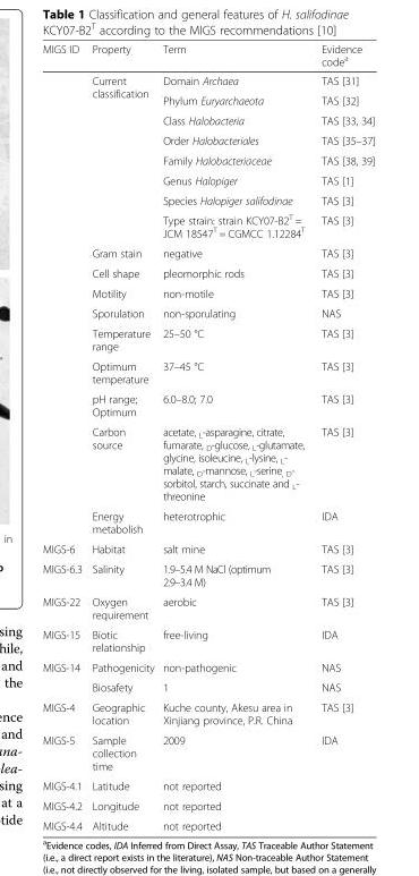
<table><thead><tr><td>MIGS ID</td><td>Property</td><td>Term</td><td>Evidence code<sup>a</sup></td></tr></thead><tbody><tr><td rowspan="8"></td><td rowspan="8">Current classification</td><td>Domain Archaea</td><td>TAS [31]</td></tr><tr><td>Phylum Euryarchaeota</td><td>TAS [32]</td></tr><tr><td>Class Halobacteria</td><td>TAS [33, 34]</td></tr><tr><td>Order Halobacteriales</td><td>TAS [35–37]</td></tr><tr><td>Family Halobacteriaceae</td><td>TAS [38, 39]</td></tr><tr><td>Genus Halopiger</td><td>TAS [1]</td></tr><tr><td>Species Halopiger salifodinae</td><td>TAS [3]</td></tr><tr><td>Type strain: strain KCY07-B2<sup>T</sup> = JCM 18547<sup>T</sup> = CGMCC 1.12284<sup>T</sup></td><td>TAS [3]</td></tr><tr><td></td><td>Gram stain</td><td>negative</td><td>TAS [3]</td></tr><tr><td></td><td>Cell shape</td><td>pleomorphic rods</td><td>TAS [3]</td></tr><tr><td></td><td>Motility</td><td>non-motile</td><td>TAS [3]</td></tr><tr><td></td><td>Sporulation</td><td>non-sporulating</td><td>NAS</td></tr><tr><td></td><td>Temperature range</td><td>25–50 °C</td><td>TAS [3]</td></tr><tr><td></td><td>Optimum temperature</td><td>37–45 °C</td><td>TAS [3]</td></tr><tr><td></td><td>pH range; Optimum</td><td>6.0–8.0; 7.0</td><td>TAS [3]</td></tr><tr><td></td><td>Carbon source</td><td>acetate, <sub>L</sub>-asparagine, citrate, fumarate, <sub>D</sub>-glucose, <sub>L</sub>-glutamate, glycine, isoleucine, <sub>L</sub>-lysine, <sub>L</sub>- malate, <sub>D</sub>-mannose, <sub>L</sub>-serine<sub>, D</sub>- sorbitol, starch, succinate and <sub>L</sub>- threonine</td><td>TAS [3]</td></tr><tr><td></td><td>Energy metabolish</td><td>heterotrophic</td><td>IDA</td></tr><tr><td>MIGS-6</td><td>Habitat</td><td>salt mine</td><td>TAS [3]</td></tr><tr><td>MIGS-6.3</td><td>Salinity</td><td>1.9–5.4 M NaCl (optimum 2.9–3.4 M)</td><td>TAS [3]</td></tr><tr><td>MIGS-22</td><td>Oxygen requirement</td><td>aerobic</td><td>TAS [3]</td></tr><tr><td>MIGS-15</td><td>Biotic relationship</td><td>free-living</td><td>IDA</td></tr><tr><td rowspan="2">MIGS-14</td><td>Pathogenicity</td><td>non-pathogenic</td><td>NAS</td></tr><tr><td>Biosafety</td><td>1</td><td>NAS</td></tr><tr><td>MIGS-4</td><td>Geographic location</td><td>Kuche county, Akesu area in Xinjiang province, P.R. China</td><td>TAS [3]</td></tr><tr><td>MIGS-5</td><td>Sample collection time</td><td>2009</td><td>IDA</td></tr><tr><td>MIGS-4.1</td><td>Latitude</td><td>not reported</td><td></td></tr><tr><td>MIGS-4.2</td><td>Longitude</td><td>not reported</td><td></td></tr><tr><td>MIGS-4.4</td><td>Altitude</td><td>not reported</td><td></td></tr></tbody></table>